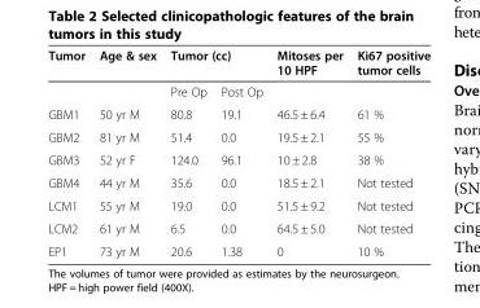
<table><thead><tr><td rowspan="2">Tumor</td><td rowspan="2">Age &amp; sex</td><td colspan="2">Tumor (cc)</td><td rowspan="2">Mitoses per 10 HPF</td><td rowspan="2">Ki67 positive tumor cells</td></tr><tr><td>Pre Op</td><td>Post Op</td></tr></thead><tbody><tr><td>GBM1</td><td>50 yr M</td><td>80.8</td><td>19.1</td><td>46.5 ± 6.4</td><td>61 %</td></tr><tr><td>GBM2</td><td>81 yr M</td><td>51.4</td><td>0.0</td><td>19.5 ± 2.1</td><td>55 %</td></tr><tr><td>GBM3</td><td>52 yr F</td><td>124.0</td><td>96.1</td><td>10 ± 2.8</td><td>38 %</td></tr><tr><td>GBM4</td><td>44 yr M</td><td>35.6</td><td>0.0</td><td>18.5 ± 2.1</td><td>Not tested</td></tr><tr><td>LCM1</td><td>55 yr M</td><td>19.0</td><td>0.0</td><td>51.5 ± 9.2</td><td>Not tested</td></tr><tr><td>LCM2</td><td>61 yr M</td><td>6.5</td><td>0.0</td><td>64.5 ± 5.0</td><td>Not tested</td></tr><tr><td>EP1</td><td>73 yr M</td><td>20.6</td><td>1.38</td><td>0</td><td>10 %</td></tr></tbody></table>